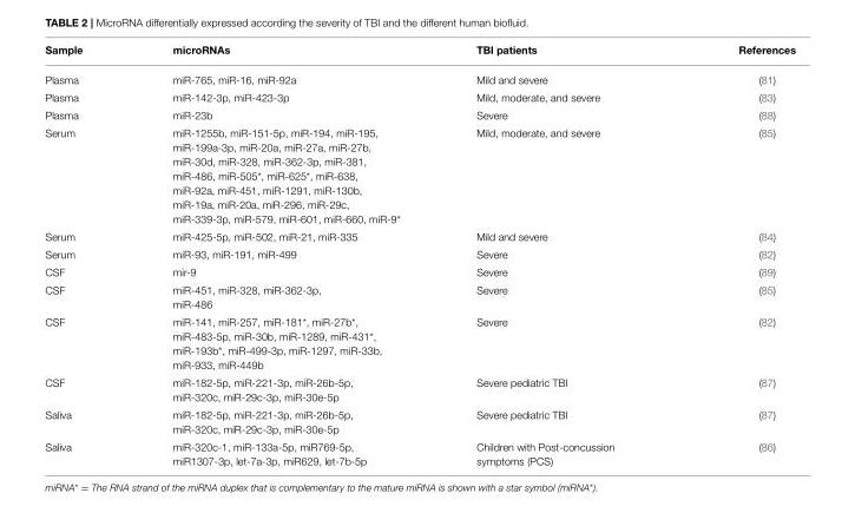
<table><thead><tr><td>Sample</td><td>microRNAs</td><td>TBI patients</td><td>References</td></tr></thead><tbody><tr><td>Plasma</td><td>miR-765, miR-16, miR-92a</td><td>Mild and severe</td><td>(81)</td></tr><tr><td>Plasma</td><td>miR-142-3p, miR-423-3p</td><td>Mild, moderate, and severe</td><td>(83)</td></tr><tr><td>Plasma</td><td>miR-23b</td><td>Severe</td><td>(88)</td></tr><tr><td>Serum</td><td>miR-1255b, miR-151-5p, miR-194, miR-195, miR-199a-3p, miR-20a, miR-27a, miR-27b, miR-30d, miR-328, miR-362-3p, miR-381, miR-486, miR-505*, miR-625*, miR-638, miR-92a, miR-451, miR-1291, miR-130b, miR-19a, miR-20a, miR-296, miR-29c, miR-339-3p, miR-579, miR-601, miR-660, miR-9*</td><td>Mild, moderate, and severe</td><td>(85)</td></tr><tr><td>Serum</td><td>miR-425-5p, miR-502, miR-21, miR-335</td><td>Mild and severe</td><td>(84)</td></tr><tr><td>Serum</td><td>miR-93, miR-191, miR-499</td><td>Severe</td><td>(82)</td></tr><tr><td>CSF</td><td>mir-9</td><td>Severe</td><td>(89)</td></tr><tr><td>CSF</td><td>miR-451, miR-328, miR-362-3p, miR-486</td><td>Severe</td><td>(85)</td></tr><tr><td>CSF</td><td>miR-141, miR-257, miR-181*, miR-27b*, miR-483-5p, miR-30b, miR-1289, miR-431*, miR-193b*, miR-499-3p, miR-1297, miR-33b, miR-933, miR-449b</td><td>Severe</td><td>(82)</td></tr><tr><td>CSF</td><td>miR-182-5p, miR-221-3p, miR-26b-5p, miR-320c, miR-29c-3p, miR-30e-5p</td><td>Severe pediatric TBI</td><td>(87)</td></tr><tr><td>Saliva</td><td>miR-182-5p, miR-221-3p, miR-26b-5p, miR-320c, miR-29c-3p, miR-30e-5p</td><td>Severe pediatric TBI</td><td>(87)</td></tr><tr><td>Saliva</td><td>miR-320c-1, miR-133a-5p, miR769-5p, miR1307-3p, let-7a-3p, miR629, let-7b-5p</td><td>Children with Post-concussion symptoms (PCS)</td><td>(86)</td></tr></tbody></table>